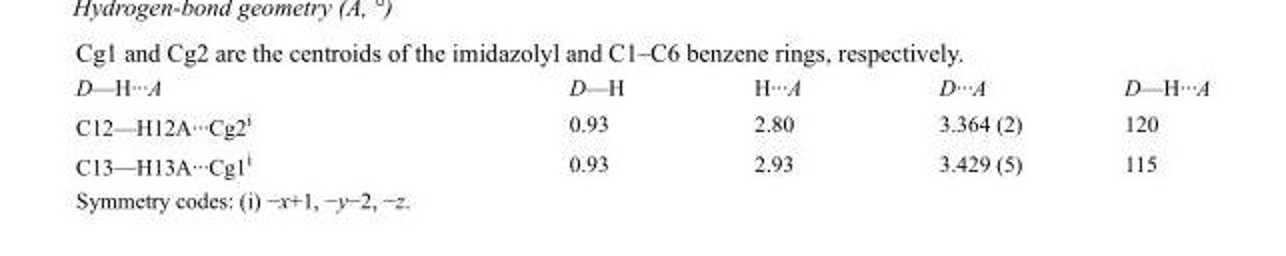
<table><tbody><tr><td>D—H···A</td><td>D—H</td><td>H···A</td><td>D···A</td><td>D—H···A</td></tr><tr><td>C12—H12A···Cg2<sup>i</sup></td><td>0.93</td><td>2.80</td><td>3.364 (2)</td><td>120</td></tr><tr><td>C13—H13A···Cg1<sup>i</sup></td><td>0.93</td><td>2.93</td><td>3.429 (5)</td><td>115</td></tr></tbody></table>